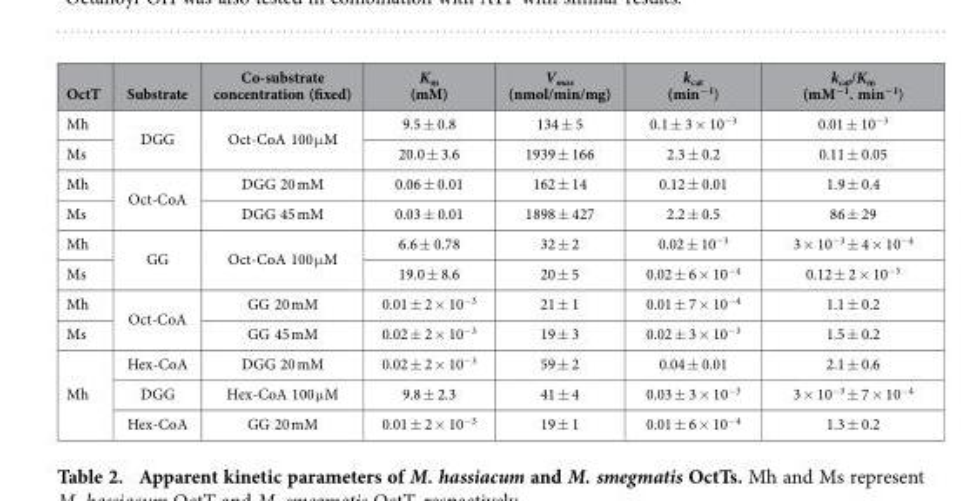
<table><thead><tr><td>OctT</td><td>Substrate</td><td>Co-substrate concentration (fixed)</td><td>K<sub>m</sub> (mM)</td><td>V<sub>max</sub> (nmol/min/mg)</td><td>k<sub>cat</sub> (min<sup>−1</sup>)</td><td>k<sub>cat</sub>/K<sub>m</sub> (mM<sup>−1</sup>. min<sup>−1</sup>)</td></tr></thead><tbody><tr><td>Mh</td><td rowspan="2">DGG</td><td rowspan="2">Oct-CoA 100 μ M</td><td>9.5 ± 0.8</td><td>134 ± 5</td><td>0.1 ± 3 × 10<sup>−3</sup></td><td>0.01 ± 10<sup>−3</sup></td></tr><tr><td>Ms</td><td>20.0 ± 3.6</td><td>1939 ± 166</td><td>2.3 ± 0.2</td><td>0.11 ± 0.05</td></tr><tr><td>Mh</td><td rowspan="2">Oct-CoA</td><td>DGG 20 mM</td><td>0.06 ± 0.01</td><td>162 ± 14</td><td>0.12 ± 0.01</td><td>1.9 ± 0.4</td></tr><tr><td>Ms</td><td>DGG 45 mM</td><td>0.03 ± 0.01</td><td>1898 ± 427</td><td>2.2 ± 0.5</td><td>86 ± 29</td></tr><tr><td>Mh</td><td rowspan="2">GG</td><td rowspan="2">Oct-CoA 100 μ M</td><td>6.6 ± 0.78</td><td>32 ± 2</td><td>0.02 ± 10<sup>−3</sup></td><td>3 × 10<sup>−3</sup> ± 4 × 10<sup>−4</sup></td></tr><tr><td>Ms</td><td>19.0 ± 8.6</td><td>20 ± 5</td><td>0.02 ± 6 × 10<sup>−4</sup></td><td>0.12 ± 2 × 10<sup>−5</sup></td></tr><tr><td>Mh</td><td rowspan="2">Oct-CoA</td><td>GG 20 mM</td><td>0.01 ± 2 × 10<sup>−3</sup></td><td>21 ± 1</td><td>0.01 ± 7 × 10<sup>−4</sup></td><td>1.1 ± 0.2</td></tr><tr><td>Ms</td><td>GG 45 mM</td><td>0.02 ± 2 × 10<sup>−3</sup></td><td>19 ± 3</td><td>0.02 ± 3 × 10<sup>−3</sup></td><td>1.5 ± 0.2</td></tr><tr><td rowspan="3">Mh</td><td>Hex-CoA</td><td>DGG 20 mM</td><td>0.02 ± 2 × 10<sup>−3</sup></td><td>59 ± 2</td><td>0.04 ± 0.01</td><td>2.1 ± 0.6</td></tr><tr><td>DGG</td><td>Hex-CoA 100 μ M</td><td>9.8 ± 2.3</td><td>41 ± 4</td><td>0.03 ± 3 × 10<sup>−3</sup></td><td>3 × 10<sup>−3</sup> ± 7 × 10<sup>−4</sup></td></tr><tr><td>Hex-CoA</td><td>GG 20 mM</td><td>0.01 ± 2 × 10<sup>−3</sup></td><td>19 ± 1</td><td>0.01 ± 6 × 10<sup>−4</sup></td><td>1.3 ± 0.2</td></tr></tbody></table>